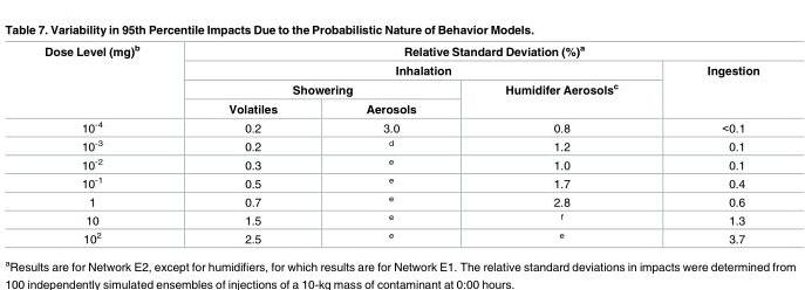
<table><thead><tr><td rowspan="4">Dose Level (mg)<sup>b</sup></td><td colspan="4">Relative Standard Deviation (%)<sup>a</sup></td></tr><tr><td colspan="3">Inhalation</td><td rowspan="3">Ingestion</td></tr><tr><td colspan="2">Showering</td><td rowspan="2">Humidifer Aerosols<sup>c</sup></td></tr><tr><td>Volatiles</td><td>Aerosols</td></tr></thead><tbody><tr><td>10<sup>-4</sup></td><td>0.2</td><td>3.0</td><td>0.8</td><td>&lt;0.1</td></tr><tr><td>10<sup>-3</sup></td><td>0.2</td><td><sup>d</sup></td><td>1.2</td><td>0.1</td></tr><tr><td>10<sup>-2</sup></td><td>0.3</td><td><sup>e</sup></td><td>1.0</td><td>0.1</td></tr><tr><td>10<sup>-1</sup></td><td>0.5</td><td><sup>e</sup></td><td>1.7</td><td>0.4</td></tr><tr><td>1</td><td>0.7</td><td><sup>e</sup></td><td>2.8</td><td>0.6</td></tr><tr><td>10</td><td>1.5</td><td><sup>e</sup></td><td><sup>f</sup></td><td>1.3</td></tr><tr><td>10<sup>2</sup></td><td>2.5</td><td><sup>e</sup></td><td><sup>e</sup></td><td>3.7</td></tr></tbody></table>